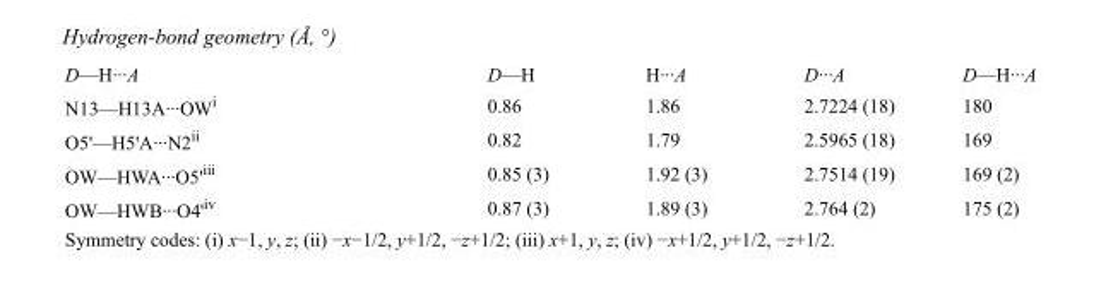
<table><tbody><tr><td>D—H···A</td><td>D—H</td><td>H···A</td><td>D···A</td><td>D—H···A</td></tr><tr><td>N13—H13A···OW<sup>i</sup></td><td>0.86</td><td>1.86</td><td>2.7224 (18)</td><td>180</td></tr><tr><td>O5&#x27;—H5&#x27;A···N2<sup>ii</sup></td><td>0.82</td><td>1.79</td><td>2.5965 (18)</td><td>169</td></tr><tr><td>OW—HWA···O5&#x27;<sup>iii</sup></td><td>0.85 (3)</td><td>1.92 (3)</td><td>2.7514 (19)</td><td>169 (2)</td></tr><tr><td>OW—HWB···O4&#x27;<sup>iv</sup></td><td>0.87 (3)</td><td>1.89 (3)</td><td>2.764 (2)</td><td>175 (2)</td></tr></tbody></table>